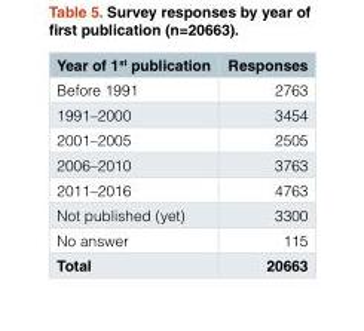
<table><thead><tr><td>Year of 1<sup>st</sup> publication</td><td>Responses</td></tr></thead><tbody><tr><td>Before 1991</td><td>2763</td></tr><tr><td>1991–2000</td><td>3454</td></tr><tr><td>2001–2005</td><td>2505</td></tr><tr><td>2006–2010</td><td>3763</td></tr><tr><td>2011–2016</td><td>4763</td></tr><tr><td>Not published (yet)</td><td>3300</td></tr><tr><td>No answer</td><td>115</td></tr><tr><td>Total</td><td>20663</td></tr></tbody></table>